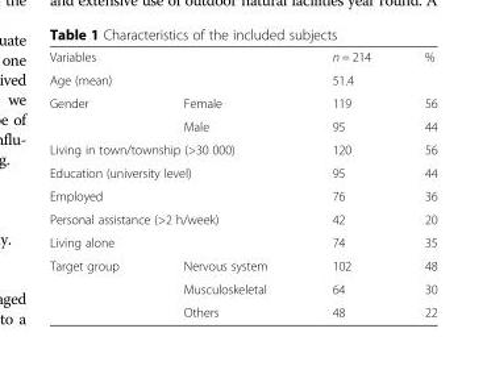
<table><tbody><tr><td>Variables</td><td></td><td>n = 214</td><td>%</td></tr><tr><td>Age (mean)</td><td></td><td>51.4</td><td></td></tr><tr><td rowspan="2">Gender</td><td>Female</td><td>119</td><td>56</td></tr><tr><td>Male</td><td>95</td><td>44</td></tr><tr><td colspan="2">Living in town/township (&gt;30 000)</td><td>120</td><td>56</td></tr><tr><td colspan="2">Education (university level)</td><td>95</td><td>44</td></tr><tr><td>Employed</td><td></td><td>76</td><td>36</td></tr><tr><td colspan="2">Personal assistance (&gt;2 h/week)</td><td>42</td><td>20</td></tr><tr><td>Living alone</td><td></td><td>74</td><td>35</td></tr><tr><td rowspan="3">Target group</td><td>Nervous system</td><td>102</td><td>48</td></tr><tr><td>Musculoskeletal</td><td>64</td><td>30</td></tr><tr><td>Others</td><td>48</td><td>22</td></tr></tbody></table>